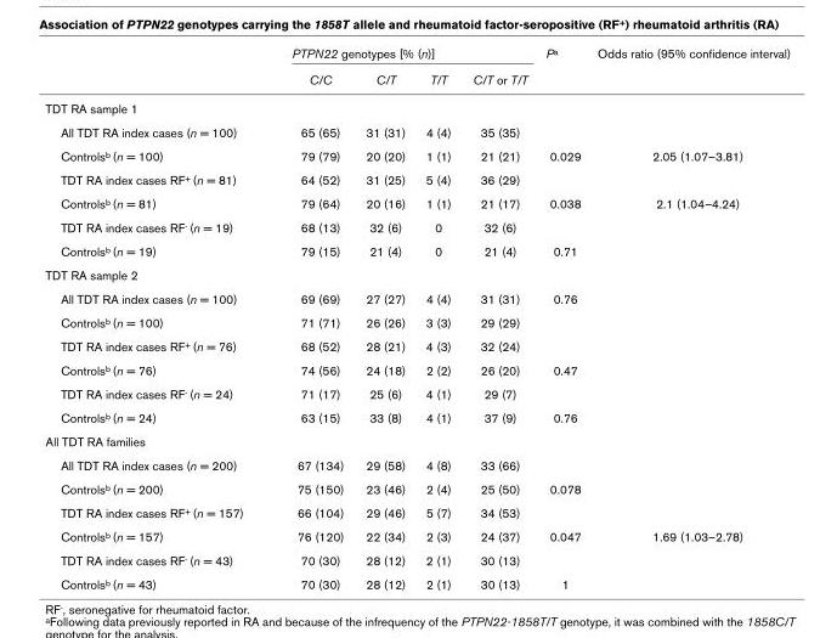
<table><thead><tr><td rowspan="2"></td><td colspan="4">PTPN22 genotypes [% (n)]</td><td rowspan="2">Pa</td><td rowspan="2">Odds ratio (95% confidence interval)</td></tr><tr><td>C/C</td><td>C/T</td><td>T/T</td><td>C/T or T/T</td></tr></thead><tbody><tr><td colspan="7">TDT RA sample 1</td></tr><tr><td>All TDT RA index cases (n = 100)</td><td>65 (65)</td><td>31 (31)</td><td>4 (4)</td><td>35 (35)</td><td></td><td></td></tr><tr><td>Controlsb (n = 100)</td><td>79 (79)</td><td>20 (20)</td><td>1 (1)</td><td>21 (21)</td><td>0.029</td><td>2.05 (1.07–3.81)</td></tr><tr><td>TDT RA index cases RF+ (n = 81)</td><td>64 (52)</td><td>31 (25)</td><td>5 (4)</td><td>36 (29)</td><td></td><td></td></tr><tr><td>Controlsb (n = 81)</td><td>79 (64)</td><td>20 (16)</td><td>1 (1)</td><td>21 (17)</td><td>0.038</td><td>2.1 (1.04–4.24)</td></tr><tr><td>TDT RA index cases RF- (n = 19)</td><td>68 (13)</td><td>32 (6)</td><td>0</td><td>32 (6)</td><td></td><td></td></tr><tr><td>Controlsb (n = 19)</td><td>79 (15)</td><td>21 (4)</td><td>0</td><td>21 (4)</td><td>0.71</td><td></td></tr><tr><td colspan="7">TDT RA sample 2</td></tr><tr><td>All TDT RA index cases (n = 100)</td><td>69 (69)</td><td>27 (27)</td><td>4 (4)</td><td>31 (31)</td><td>0.76</td><td></td></tr><tr><td>Controlsb (n = 100)</td><td>71 (71)</td><td>26 (26)</td><td>3 (3)</td><td>29 (29)</td><td></td><td></td></tr><tr><td>TDT RA index cases RF+ (n = 76)</td><td>68 (52)</td><td>28 (21)</td><td>4 (3)</td><td>32 (24)</td><td></td><td></td></tr><tr><td>Controlsb (n = 76)</td><td>74 (56)</td><td>24 (18)</td><td>2 (2)</td><td>26 (20)</td><td>0.47</td><td></td></tr><tr><td>TDT RA index cases RF- (n = 24)</td><td>71 (17)</td><td>25 (6)</td><td>4 (1)</td><td>29 (7)</td><td></td><td></td></tr><tr><td>Controlsb (n = 24)</td><td>63 (15)</td><td>33 (8)</td><td>4 (1)</td><td>37 (9)</td><td>0.76</td><td></td></tr><tr><td colspan="7">All TDT RA families</td></tr><tr><td>All TDT RA index cases (n = 200)</td><td>67 (134)</td><td>29 (58)</td><td>4 (8)</td><td>33 (66)</td><td></td><td></td></tr><tr><td>Controlsb (n = 200)</td><td>75 (150)</td><td>23 (46)</td><td>2 (4)</td><td>25 (50)</td><td>0.078</td><td></td></tr><tr><td>TDT RA index cases RF+ (n = 157)</td><td>66 (104)</td><td>29 (46)</td><td>5 (7)</td><td>34 (53)</td><td></td><td></td></tr><tr><td>Controlsb (n = 157)</td><td>76 (120)</td><td>22 (34)</td><td>2 (3)</td><td>24 (37)</td><td>0.047</td><td>1.69 (1.03–2.78)</td></tr><tr><td>TDT RA index cases RF- (n = 43)</td><td>70 (30)</td><td>28 (12)</td><td>2 (1)</td><td>30 (13)</td><td></td><td></td></tr><tr><td>Controlsb (n = 43)</td><td>70 (30)</td><td>28 (12)</td><td>2 (1)</td><td>30 (13)</td><td>1</td><td></td></tr></tbody></table>